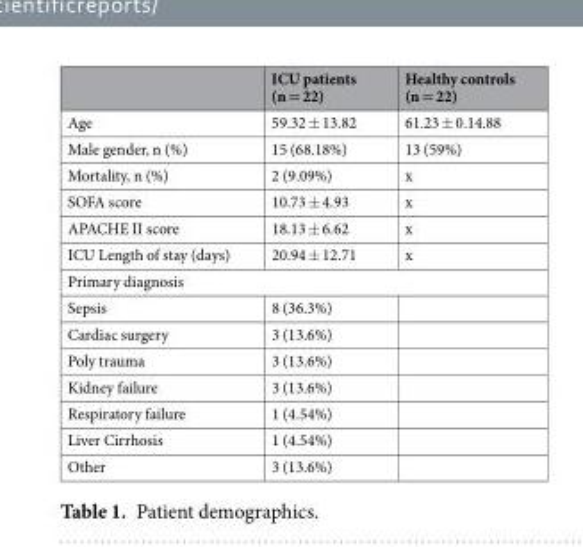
<table><thead><tr><td></td><td>ICU patients (n = 22)</td><td>Healthy controls (n = 22)</td></tr></thead><tbody><tr><td>Age</td><td>59.32 ± 13.82</td><td>61.23 ± 0.14.88</td></tr><tr><td>Male gender, n (%)</td><td>15 (68.18%)</td><td>13 (59%)</td></tr><tr><td>Mortality, n (%)</td><td>2 (9.09%)</td><td>x</td></tr><tr><td>SOFA score</td><td>10.73 ± 4.93</td><td>x</td></tr><tr><td>APACHE II score</td><td>18.13 ± 6.62</td><td>x</td></tr><tr><td>ICU Length of stay (days)</td><td>20.94 ± 12.71</td><td>x</td></tr><tr><td colspan="3">Primary diagnosis</td></tr><tr><td>Sepsis</td><td>8 (36.3%)</td><td></td></tr><tr><td>Cardiac surgery</td><td>3 (13.6%)</td><td></td></tr><tr><td>Poly trauma</td><td>3 (13.6%)</td><td></td></tr><tr><td>Kidney failure</td><td>3 (13.6%)</td><td></td></tr><tr><td>Respiratory failure</td><td>1 (4.54%)</td><td></td></tr><tr><td>Liver Cirrhosis</td><td>1 (4.54%)</td><td></td></tr><tr><td>Other</td><td>3 (13.6%)</td><td></td></tr></tbody></table>